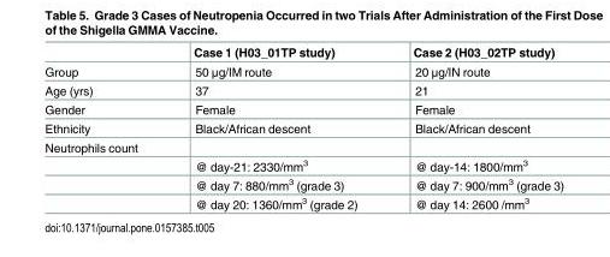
<table><thead><tr><td></td><td>Case 1 (H03_01TP study)</td><td>Case 2 (H03_02TP study)</td></tr></thead><tbody><tr><td>Group</td><td>50 μg/IM route</td><td>20 μg/IN route</td></tr><tr><td>Age (yrs)</td><td>37</td><td>21</td></tr><tr><td>Gender</td><td>Female</td><td>Female</td></tr><tr><td>Ethnicity</td><td>Black/African descent</td><td>Black/African descent</td></tr><tr><td colspan="3">Neutrophils count</td></tr><tr><td></td><td>@ day-21: 2330/mm<sup>3</sup></td><td>@ day-14: 1800/mm<sup>3</sup></td></tr><tr><td></td><td>@ day 7: 880/mm<sup>3</sup> (grade 3)</td><td>@ day 7: 900/mm<sup>3</sup> (grade 3)</td></tr><tr><td></td><td>@ day 20: 1360/mm<sup>3</sup> (grade 2)</td><td>@ day 14: 2600 /mm<sup>3</sup></td></tr></tbody></table>